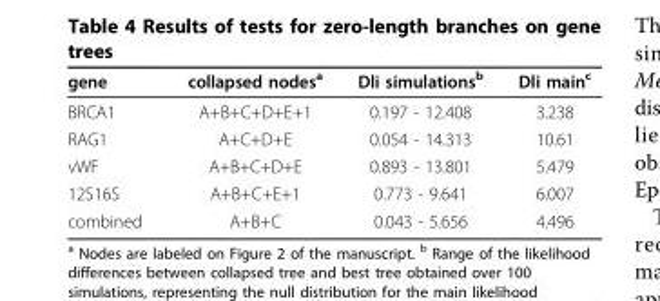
<table><thead><tr><td>gene</td><td>collapsed nodes<sup>a</sup></td><td>Dli simulations<sup>b</sup></td><td>Dli main<sup>c</sup></td></tr></thead><tbody><tr><td>BRCA1</td><td>A+B+C+D+E+1</td><td>0.197 - 12.408</td><td>3.238</td></tr><tr><td>RAG1</td><td>A+C+D+E</td><td>0.054 - 14.313</td><td>10.61</td></tr><tr><td>vWF</td><td>A+B+C+D+E</td><td>0.893 - 13.801</td><td>5.479</td></tr><tr><td>12S16S</td><td>A+B+C+E+1</td><td>0.773 - 9.641</td><td>6.007</td></tr><tr><td>combined</td><td>A+B+C</td><td>0.043 - 5.656</td><td>4.496</td></tr></tbody></table>